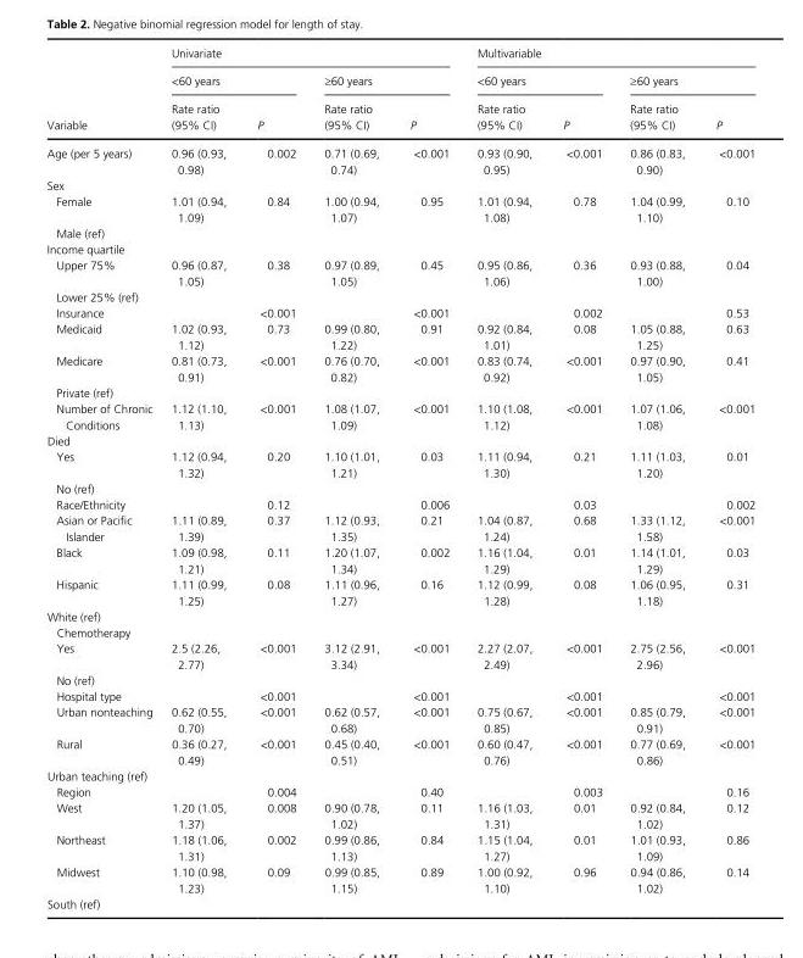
<table><thead><tr><td rowspan="3">Variable</td><td colspan="4">Univariate</td><td colspan="4">Multivariable</td></tr><tr><td colspan="2">&lt;60 years</td><td colspan="2">≥60 years</td><td colspan="2">&lt;60 years</td><td colspan="2">≥60 years</td></tr><tr><td>Rate ratio (95% CI)</td><td>P</td><td>Rate ratio (95% CI)</td><td>P</td><td>Rate ratio (95% CI)</td><td>P</td><td>Rate ratio (95% CI)</td><td>P</td></tr></thead><tbody><tr><td>Age (per 5 years)</td><td>0.96 (0.93, 0.98)</td><td>0.002</td><td>0.71 (0.69, 0.74)</td><td>&lt;0.001</td><td>0.93 (0.90, 0.95)</td><td>&lt;0.001</td><td>0.86 (0.83, 0.90)</td><td>&lt;0.001</td></tr><tr><td colspan="9">Sex</td></tr><tr><td>Female</td><td>1.01 (0.94, 1.09)</td><td>0.84</td><td>1.00 (0.94, 1.07)</td><td>0.95</td><td>1.01 (0.94, 1.08)</td><td>0.78</td><td>1.04 (0.99, 1.10)</td><td>0.10</td></tr><tr><td colspan="9">Male (ref)</td></tr><tr><td colspan="9">Income quartile</td></tr><tr><td>Upper 75%</td><td>0.96 (0.87, 1.05)</td><td>0.38</td><td>0.97 (0.89, 1.05)</td><td>0.45</td><td>0.95 (0.86, 1.06)</td><td>0.36</td><td>0.93 (0.88, 1.00)</td><td>0.04</td></tr><tr><td colspan="9">Lower 25% (ref)</td></tr><tr><td>Insurance</td><td></td><td>&lt;0.001</td><td></td><td>&lt;0.001</td><td></td><td>0.002</td><td></td><td>0.53</td></tr><tr><td>Medicaid</td><td>1.02 (0.93, 1.12)</td><td>0.73</td><td>0.99 (0.80, 1.22)</td><td>0.91</td><td>0.92 (0.84, 1.01)</td><td>0.08</td><td>1.05 (0.88, 1.25)</td><td>0.63</td></tr><tr><td>Medicare</td><td>0.81 (0.73, 0.91)</td><td>&lt;0.001</td><td>0.76 (0.70, 0.82)</td><td>&lt;0.001</td><td>0.83 (0.74, 0.92)</td><td>&lt;0.001</td><td>0.97 (0.90, 1.05)</td><td>0.41</td></tr><tr><td colspan="9">Private (ref)</td></tr><tr><td>Number of Chronic Conditions</td><td>1.12 (1.10, 1.13)</td><td>&lt;0.001</td><td>1.08 (1.07, 1.09)</td><td>&lt;0.001</td><td>1.10 (1.08, 1.12)</td><td>&lt;0.001</td><td>1.07 (1.06, 1.08)</td><td>&lt;0.001</td></tr><tr><td colspan="9">Died</td></tr><tr><td>Yes</td><td>1.12 (0.94, 1.32)</td><td>0.20</td><td>1.10 (1.01, 1.21)</td><td>0.03</td><td>1.11 (0.94, 1.30)</td><td>0.21</td><td>1.11 (1.03, 1.20)</td><td>0.01</td></tr><tr><td colspan="9">No (ref)</td></tr><tr><td>Race/Ethnicity</td><td></td><td>0.12</td><td></td><td>0.006</td><td></td><td>0.03</td><td></td><td>0.002</td></tr><tr><td>Asian or Pacific Islander</td><td>1.11 (0.89, 1.39)</td><td>0.37</td><td>1.12 (0.93, 1.35)</td><td>0.21</td><td>1.04 (0.87, 1.24)</td><td>0.68</td><td>1.33 (1.12, 1.58)</td><td>&lt;0.001</td></tr><tr><td>Black</td><td>1.09 (0.98, 1.21)</td><td>0.11</td><td>1.20 (1.07, 1.34)</td><td>0.002</td><td>1.16 (1.04, 1.29)</td><td>0.01</td><td>1.14 (1.01, 1.29)</td><td>0.03</td></tr><tr><td>Hispanic</td><td>1.11 (0.99, 1.25)</td><td>0.08</td><td>1.11 (0.96, 1.27)</td><td>0.16</td><td>1.12 (0.99, 1.28)</td><td>0.08</td><td>1.06 (0.95, 1.18)</td><td>0.31</td></tr><tr><td colspan="9">White (ref)</td></tr><tr><td colspan="9">Chemotherapy</td></tr><tr><td>Yes</td><td>2.5 (2.26, 2.77)</td><td>&lt;0.001</td><td>3.12 (2.91, 3.34)</td><td>&lt;0.001</td><td>2.27 (2.07, 2.49)</td><td>&lt;0.001</td><td>2.75 (2.56, 2.96)</td><td>&lt;0.001</td></tr><tr><td colspan="9">No (ref)</td></tr><tr><td>Hospital type</td><td></td><td>&lt;0.001</td><td></td><td>&lt;0.001</td><td></td><td>&lt;0.001</td><td></td><td>&lt;0.001</td></tr><tr><td>Urban nonteaching</td><td>0.62 (0.55, 0.70)</td><td>&lt;0.001</td><td>0.62 (0.57, 0.68)</td><td>&lt;0.001</td><td>0.75 (0.67, 0.85)</td><td>&lt;0.001</td><td>0.85 (0.79, 0.91)</td><td>&lt;0.001</td></tr><tr><td>Rural</td><td>0.36 (0.27, 0.49)</td><td>&lt;0.001</td><td>0.45 (0.40, 0.51)</td><td>&lt;0.001</td><td>0.60 (0.47, 0.76)</td><td>&lt;0.001</td><td>0.77 (0.69, 0.86)</td><td>&lt;0.001</td></tr><tr><td colspan="9">Urban teaching (ref)</td></tr><tr><td>Region</td><td></td><td>0.004</td><td></td><td>0.40</td><td></td><td>0.003</td><td></td><td>0.16</td></tr><tr><td>West</td><td>1.20 (1.05, 1.37)</td><td>0.008</td><td>0.90 (0.78, 1.02)</td><td>0.11</td><td>1.16 (1.03, 1.31)</td><td>0.01</td><td>0.92 (0.84, 1.02)</td><td>0.12</td></tr><tr><td>Northeast</td><td>1.18 (1.06, 1.31)</td><td>0.002</td><td>0.99 (0.86, 1.13)</td><td>0.84</td><td>1.15 (1.04, 1.27)</td><td>0.01</td><td>1.01 (0.93, 1.09)</td><td>0.86</td></tr><tr><td>Midwest</td><td>1.10 (0.98, 1.23)</td><td>0.09</td><td>0.99 (0.85, 1.15)</td><td>0.89</td><td>1.00 (0.92, 1.10)</td><td>0.96</td><td>0.94 (0.86, 1.02)</td><td>0.14</td></tr><tr><td>South (ref)</td><td></td><td></td><td></td><td></td><td></td><td></td><td></td><td></td></tr></tbody></table>